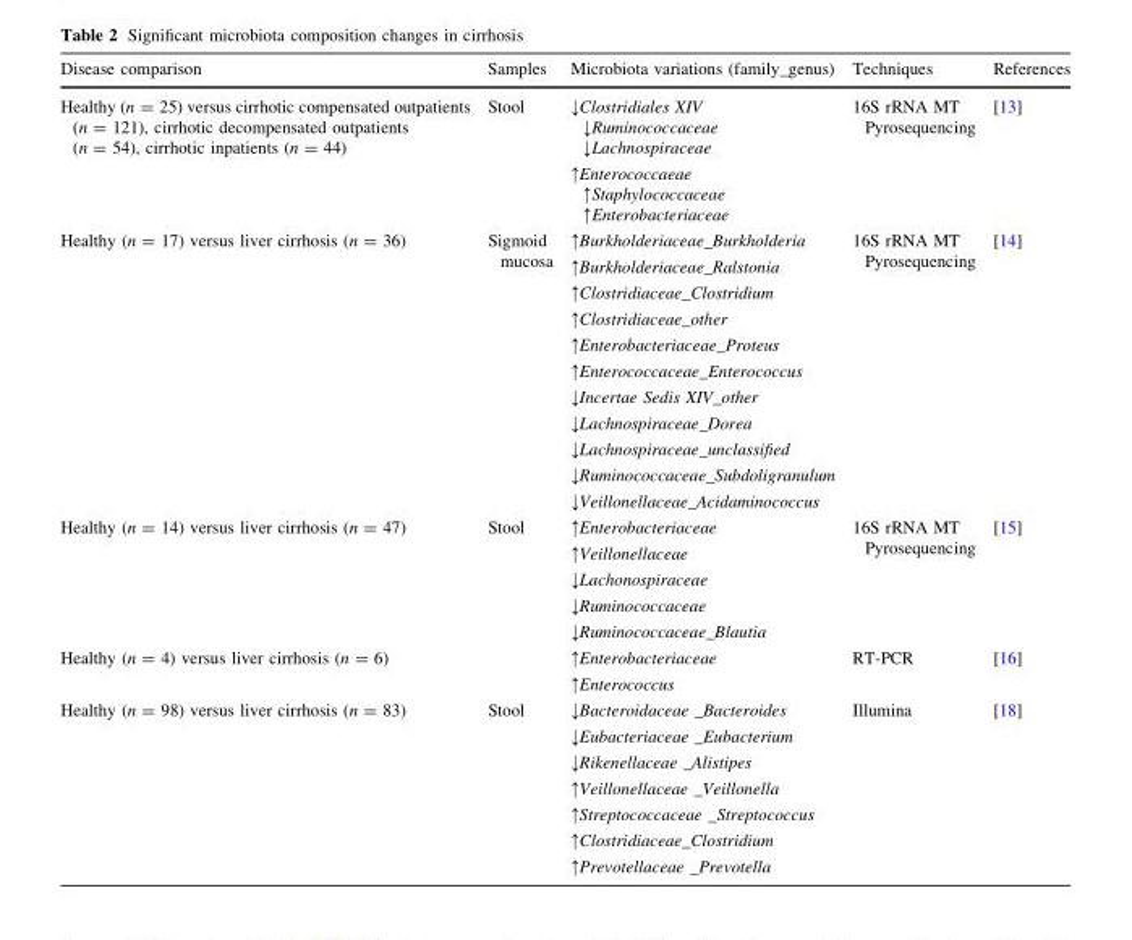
<table><thead><tr><td>Disease comparison</td><td>Samples</td><td>Microbiota variations (family_genus)</td><td>Techniques</td><td>References</td></tr></thead><tbody><tr><td>Healthy (n = 25) versus cirrhotic compensated outpatients (n = 121), cirrhotic decompensated outpatients (n = 54), cirrhotic inpatients (n = 44)</td><td>Stool</td><td>↓Clostridiales XIV ↓Ruminococcaceae ↓Lachnospiraceae ↑Enterococcaeae ↑Staphylococcaceae ↑Enterobacteriaceae</td><td>16S rRNA MT Pyrosequencing</td><td>[13]</td></tr><tr><td>Healthy (n = 17) versus liver cirrhosis (n = 36)</td><td>Sigmoid mucosa</td><td>↑Burkholderiaceae_Burkholderia ↑Burkholderiaceae_Ralstonia ↑Clostridiaceae_Clostridium ↑Clostridiaceae_other ↑Enterobacteriaceae_Proteus ↑Enterococcaceae_Enterococcus ↓Incertae Sedis XIV_other ↓Lachnospiraceae_Dorea ↓Lachnospiraceae_unclassified ↓Ruminococcaceae_Subdoligranulum ↓Veillonellaceae_Acidaminococcus</td><td>16S rRNA MT Pyrosequencing</td><td>[14]</td></tr><tr><td>Healthy (n = 14) versus liver cirrhosis (n = 47)</td><td>Stool</td><td>↑Enterobacteriaceae ↑Veillonellaceae ↓Lachonospiraceae ↓Ruminococcaceae ↓Ruminococcaceae_Blautia</td><td>16S rRNA MT Pyrosequencing</td><td>[15]</td></tr><tr><td>Healthy (n = 4) versus liver cirrhosis (n = 6)</td><td></td><td>↑Enterobacteriaceae ↑Enterococcus</td><td>RT-PCR</td><td>[16]</td></tr><tr><td>Healthy (n = 98) versus liver cirrhosis (n = 83)</td><td>Stool</td><td>↓Bacteroidaceae _Bacteroides ↓Eubacteriaceae _Eubacterium ↓Rikenellaceae _Alistipes ↑Veillonellaceae _Veillonella ↑Streptococcaceae _Streptococcus ↑Clostridiaceae_Clostridium ↑Prevotellaceae _Prevotella</td><td>Illumina</td><td>[18]</td></tr></tbody></table>